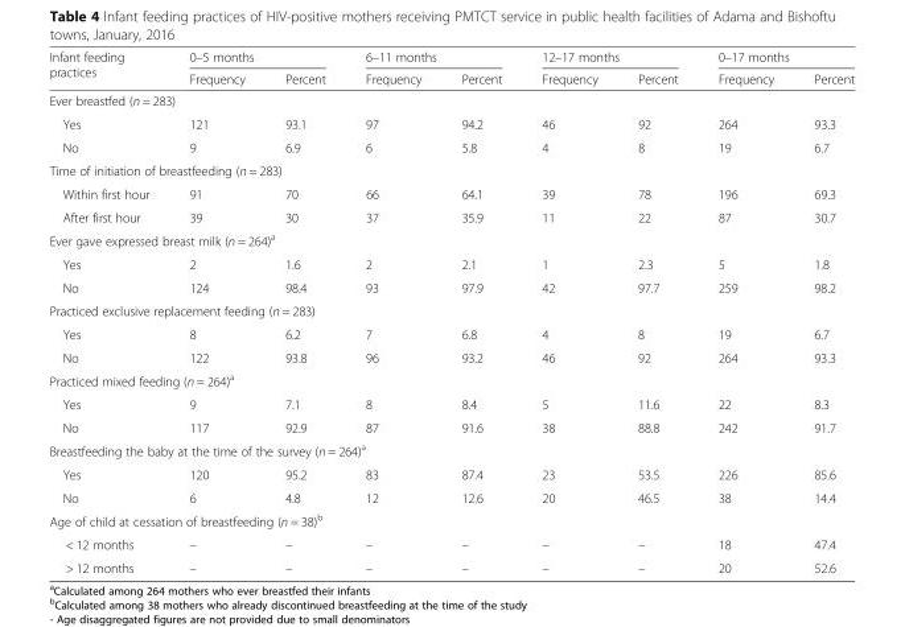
<table><thead><tr><td rowspan="2">Infant feeding practices</td><td colspan="2">0–5 months</td><td colspan="2">6–11 months</td><td colspan="2">12–17 months</td><td colspan="2">0–17 months</td></tr><tr><td>Frequency</td><td>Percent</td><td>Frequency</td><td>Percent</td><td>Frequency</td><td>Percent</td><td>Frequency</td><td>Percent</td></tr></thead><tbody><tr><td colspan="9">Ever breastfed (n = 283)</td></tr><tr><td>Yes</td><td>121</td><td>93.1</td><td>97</td><td>94.2</td><td>46</td><td>92</td><td>264</td><td>93.3</td></tr><tr><td>No</td><td>9</td><td>6.9</td><td>6</td><td>5.8</td><td>4</td><td>8</td><td>19</td><td>6.7</td></tr><tr><td colspan="9">Time of initiation of breastfeeding (n = 283)</td></tr><tr><td>Within first hour</td><td>91</td><td>70</td><td>66</td><td>64.1</td><td>39</td><td>78</td><td>196</td><td>69.3</td></tr><tr><td>After first hour</td><td>39</td><td>30</td><td>37</td><td>35.9</td><td>11</td><td>22</td><td>87</td><td>30.7</td></tr><tr><td colspan="9">Ever gave expressed breast milk (n = 264)<sup>a</sup></td></tr><tr><td>Yes</td><td>2</td><td>1.6</td><td>2</td><td>2.1</td><td>1</td><td>2.3</td><td>5</td><td>1.8</td></tr><tr><td>No</td><td>124</td><td>98.4</td><td>93</td><td>97.9</td><td>42</td><td>97.7</td><td>259</td><td>98.2</td></tr><tr><td colspan="9">Practiced exclusive replacement feeding (n = 283)</td></tr><tr><td>Yes</td><td>8</td><td>6.2</td><td>7</td><td>6.8</td><td>4</td><td>8</td><td>19</td><td>6.7</td></tr><tr><td>No</td><td>122</td><td>93.8</td><td>96</td><td>93.2</td><td>46</td><td>92</td><td>264</td><td>93.3</td></tr><tr><td colspan="9">Practiced mixed feeding (n = 264)<sup>a</sup></td></tr><tr><td>Yes</td><td>9</td><td>7.1</td><td>8</td><td>8.4</td><td>5</td><td>11.6</td><td>22</td><td>8.3</td></tr><tr><td>No</td><td>117</td><td>92.9</td><td>87</td><td>91.6</td><td>38</td><td>88.8</td><td>242</td><td>91.7</td></tr><tr><td colspan="9">Breastfeeding the baby at the time of the survey (n = 264)<sup>a</sup></td></tr><tr><td>Yes</td><td>120</td><td>95.2</td><td>83</td><td>87.4</td><td>23</td><td>53.5</td><td>226</td><td>85.6</td></tr><tr><td>No</td><td>6</td><td>4.8</td><td>12</td><td>12.6</td><td>20</td><td>46.5</td><td>38</td><td>14.4</td></tr><tr><td colspan="9">Age of child at cessation of breastfeeding (n = 38)<sup>b</sup></td></tr><tr><td>&lt; 12 months</td><td>–</td><td>–</td><td>–</td><td>–</td><td>–</td><td>–</td><td>18</td><td>47.4</td></tr><tr><td>&gt; 12 months</td><td>–</td><td>–</td><td>–</td><td>–</td><td>–</td><td>–</td><td>20</td><td>52.6</td></tr></tbody></table>